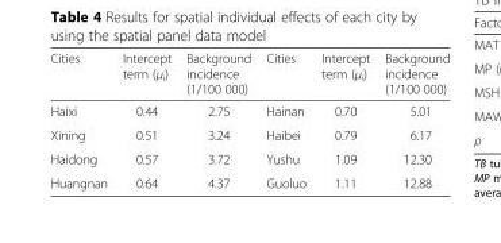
<table><thead><tr><td>Cities</td><td>Intercept term (μ<sub>i</sub>)</td><td>Background incidence (1/100 000)</td><td>Cities</td><td>Intercept term (μ<sub>i</sub>)</td><td>Background incidence (1/100 000)</td></tr></thead><tbody><tr><td>Haixi</td><td>0.44</td><td>2.75</td><td>Hainan</td><td>0.70</td><td>5.01</td></tr><tr><td>Xining</td><td>0.51</td><td>3.24</td><td>Haibei</td><td>0.79</td><td>6.17</td></tr><tr><td>Haidong</td><td>0.57</td><td>3.72</td><td>Yushu</td><td>1.09</td><td>12.30</td></tr><tr><td>Huangnan</td><td>0.64</td><td>4.37</td><td>Guoluo</td><td>1.11</td><td>12.88</td></tr></tbody></table>